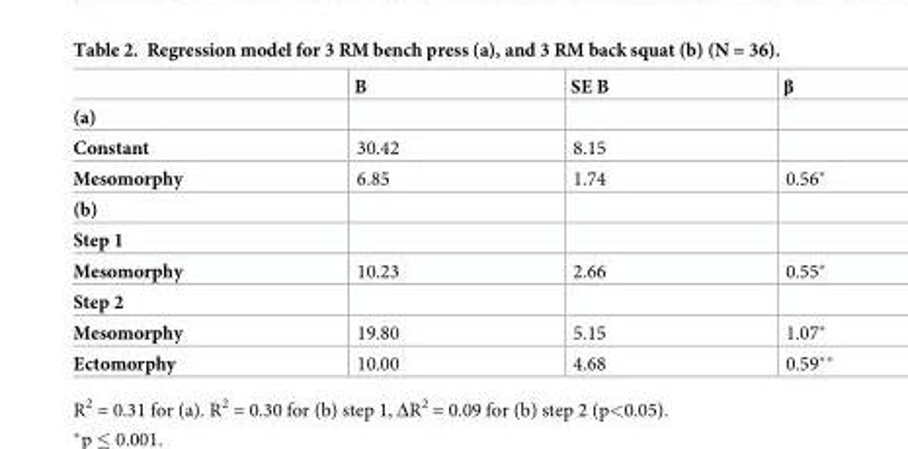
<table><thead><tr><td></td><td>B</td><td>SE B</td><td>β</td></tr></thead><tbody><tr><td colspan="4">(a)</td></tr><tr><td>Constant</td><td>30.42</td><td>8.15</td><td></td></tr><tr><td>Mesomorphy</td><td>6.85</td><td>1.74</td><td>0.56*</td></tr><tr><td colspan="4">(b)</td></tr><tr><td colspan="4">Step 1</td></tr><tr><td>Mesomorphy</td><td>10.23</td><td>2.66</td><td>0.55*</td></tr><tr><td colspan="4">Step 2</td></tr><tr><td>Mesomorphy</td><td>19.80</td><td>5.15</td><td>1.07*</td></tr><tr><td>Ectomorphy</td><td>10.00</td><td>4.68</td><td>0.59**</td></tr></tbody></table>